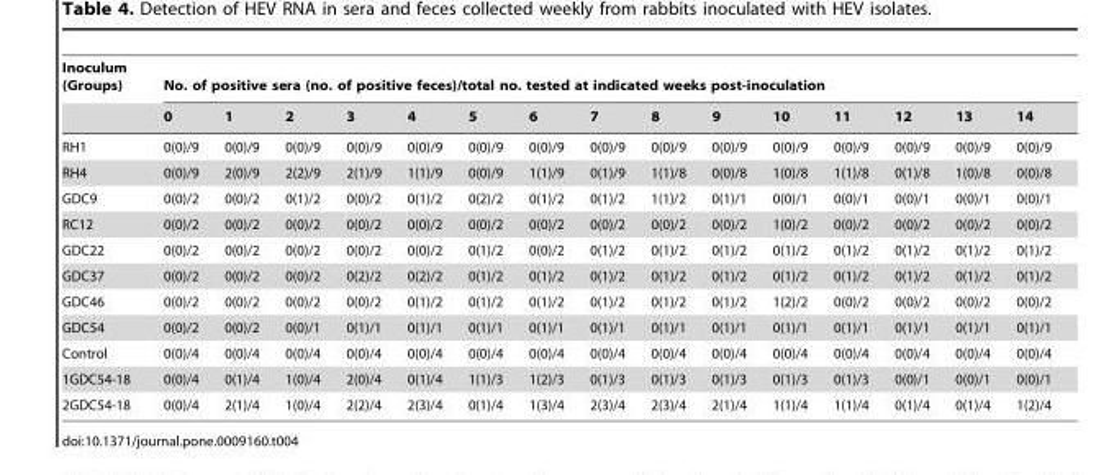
<table><thead><tr><td rowspan="2">Inoculum (Groups)</td><td colspan="15">No. of positive sera (no. of positive feces)/total no. tested at indicated weeks post-inoculation</td></tr><tr><td>0</td><td>1</td><td>2</td><td>3</td><td>4</td><td>5</td><td>6</td><td>7</td><td>8</td><td>9</td><td>10</td><td>11</td><td>12</td><td>13</td><td>14</td></tr></thead><tbody><tr><td>RH1</td><td>0(0)/9</td><td>0(0)/9</td><td>0(0)/9</td><td>0(0)/9</td><td>0(0)/9</td><td>0(0)/9</td><td>0(0)/9</td><td>0(0)/9</td><td>0(0)/9</td><td>0(0)/9</td><td>0(0)/9</td><td>0(0)/9</td><td>0(0)/9</td><td>0(0)/9</td><td>0(0)/9</td></tr><tr><td>RH4</td><td>0(0)/9</td><td>2(0)/9</td><td>2(2)/9</td><td>2(1)/9</td><td>1(1)/9</td><td>0(0)/9</td><td>1(1)/9</td><td>0(1)/9</td><td>1(1)/8</td><td>0(0)/8</td><td>1(0)/8</td><td>1(1)/8</td><td>0(1)/8</td><td>1(0)/8</td><td>0(0)/8</td></tr><tr><td>GDC9</td><td>0(0)/2</td><td>0(0)/2</td><td>0(1)/2</td><td>0(0)/2</td><td>0(1)/2</td><td>0(2)/2</td><td>0(1)/2</td><td>0(1)/2</td><td>1(1)/2</td><td>0(1)/1</td><td>0(0)/1</td><td>0(0)/1</td><td>0(0)/1</td><td>0(0)/1</td><td>0(0)/1</td></tr><tr><td>RC12</td><td>0(0)/2</td><td>0(0)/2</td><td>0(0)/2</td><td>0(0)/2</td><td>0(0)/2</td><td>0(0)/2</td><td>0(0)/2</td><td>0(0)/2</td><td>0(0)/2</td><td>0(0)/2</td><td>1(0)/2</td><td>0(0)/2</td><td>0(0)/2</td><td>0(0)/2</td><td>0(0)/2</td></tr><tr><td>GDC22</td><td>0(0)/2</td><td>0(0)/2</td><td>0(0)/2</td><td>0(0)/2</td><td>0(0)/2</td><td>0(1)/2</td><td>0(0)/2</td><td>0(1)/2</td><td>0(1)/2</td><td>0(1)/2</td><td>0(1)/2</td><td>0(1)/2</td><td>0(1)/2</td><td>0(1)/2</td><td>0(1)/2</td></tr><tr><td>GDC37</td><td>0(0)/2</td><td>0(0)/2</td><td>0(0)/2</td><td>0(2)/2</td><td>0(2)/2</td><td>0(1)/2</td><td>0(1)/2</td><td>0(1)/2</td><td>0(1)/2</td><td>0(1)/2</td><td>0(1)/2</td><td>0(1)/2</td><td>0(1)/2</td><td>0(1)/2</td><td>0(1)/2</td></tr><tr><td>GDC46</td><td>0(0)/2</td><td>0(0)/2</td><td>0(0)/2</td><td>0(0)/2</td><td>0(1)/2</td><td>0(1)/2</td><td>0(1)/2</td><td>0(1)/2</td><td>0(1)/2</td><td>0(1)/2</td><td>1(2)/2</td><td>0(0)/2</td><td>0(0)/2</td><td>0(0)/2</td><td>0(0)/2</td></tr><tr><td>GDC54</td><td>0(0)/2</td><td>0(0)/2</td><td>0(0)/1</td><td>0(1)/1</td><td>0(1)/1</td><td>0(1)/1</td><td>0(1)/1</td><td>0(1)/1</td><td>0(1)/1</td><td>0(1)/1</td><td>0(1)/1</td><td>0(1)/1</td><td>0(1)/1</td><td>0(1)/1</td><td>0(1)/1</td></tr><tr><td>Control</td><td>0(0)/4</td><td>0(0)/4</td><td>0(0)/4</td><td>0(0)/4</td><td>0(0)/4</td><td>0(0)/4</td><td>0(0)/4</td><td>0(0)/4</td><td>0(0)/4</td><td>0(0)/4</td><td>0(0)/4</td><td>0(0)/4</td><td>0(0)/4</td><td>0(0)/4</td><td>0(0)/4</td></tr><tr><td>1GDC54-18</td><td>0(0)/4</td><td>0(1)/4</td><td>1(0)/4</td><td>2(0)/4</td><td>0(1)/4</td><td>1(1)/3</td><td>1(2)/3</td><td>0(1)/3</td><td>0(1)/3</td><td>0(1)/3</td><td>0(1)/3</td><td>0(1)/3</td><td>0(0)/1</td><td>0(0)/1</td><td>0(0)/1</td></tr><tr><td>2GDC54-18</td><td>0(0)/4</td><td>2(1)/4</td><td>1(0)/4</td><td>2(2)/4</td><td>2(3)/4</td><td>0(1)/4</td><td>1(3)/4</td><td>2(3)/4</td><td>2(3)/4</td><td>2(1)/4</td><td>1(1)/4</td><td>1(1)/4</td><td>0(1)/4</td><td>0(1)/4</td><td>1(2)/4</td></tr></tbody></table>